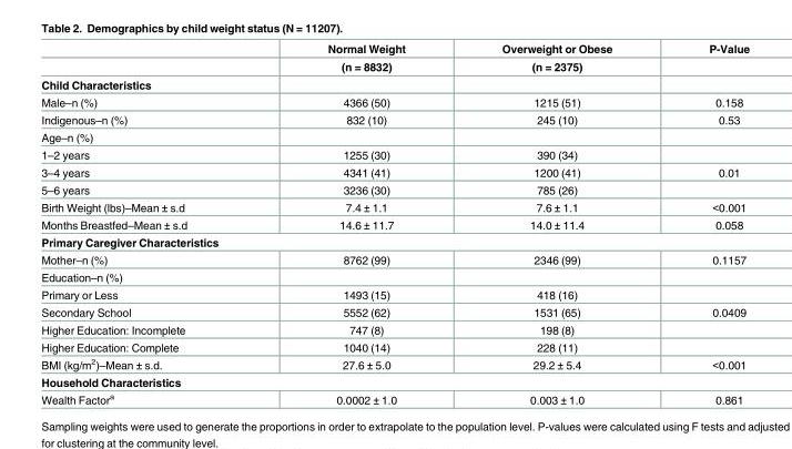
<table><thead><tr><td rowspan="2"></td><td rowspan="2">Normal Weight (n = 8832)</td><td rowspan="2">Overweight or Obese (n = 2375)</td><td rowspan="2">P-Value</td></tr><tr></tr></thead><tbody><tr><td colspan="4">Child Characteristics</td></tr><tr><td>Male–n (%)</td><td>4366 (50)</td><td>1215 (51)</td><td>0.158</td></tr><tr><td>Indigenous–n (%)</td><td>832 (10)</td><td>245 (10)</td><td>0.53</td></tr><tr><td colspan="4">Age–n (%)</td></tr><tr><td>1–2 years</td><td>1255 (30)</td><td>390 (34)</td><td></td></tr><tr><td>3–4 years</td><td>4341 (41)</td><td>1200 (41)</td><td>0.01</td></tr><tr><td>5–6 years</td><td>3236 (30)</td><td>785 (26)</td><td></td></tr><tr><td>Birth Weight (lbs)–Mean ± s.d</td><td>7.4 ± 1.1</td><td>7.6 ± 1.1</td><td>&lt;0.001</td></tr><tr><td>Months Breastfed–Mean ± s.d</td><td>14.6 ± 11.7</td><td>14.0 ± 11.4</td><td>0.058</td></tr><tr><td colspan="4">Primary Caregiver Characteristics</td></tr><tr><td>Mother–n (%)</td><td>8762 (99)</td><td>2346 (99)</td><td>0.1157</td></tr><tr><td colspan="4">Education–n (%)</td></tr><tr><td>Primary or Less</td><td>1493 (15)</td><td>418 (16)</td><td></td></tr><tr><td>Secondary School</td><td>5552 (62)</td><td>1531 (65)</td><td>0.0409</td></tr><tr><td>Higher Education: Incomplete</td><td>747 (8)</td><td>198 (8)</td><td></td></tr><tr><td>Higher Education: Complete</td><td>1040 (14)</td><td>228 (11)</td><td></td></tr><tr><td>BMI (kg/m<sup>2</sup>)–Mean ± s.d.</td><td>27.6 ± 5.0</td><td>29.2 ± 5.4</td><td>&lt;0.001</td></tr><tr><td colspan="4">Household Characteristics</td></tr><tr><td>Wealth Factor<sup>a</sup></td><td>0.0002 ± 1.0</td><td>0.003 ± 1.0</td><td>0.861</td></tr></tbody></table>